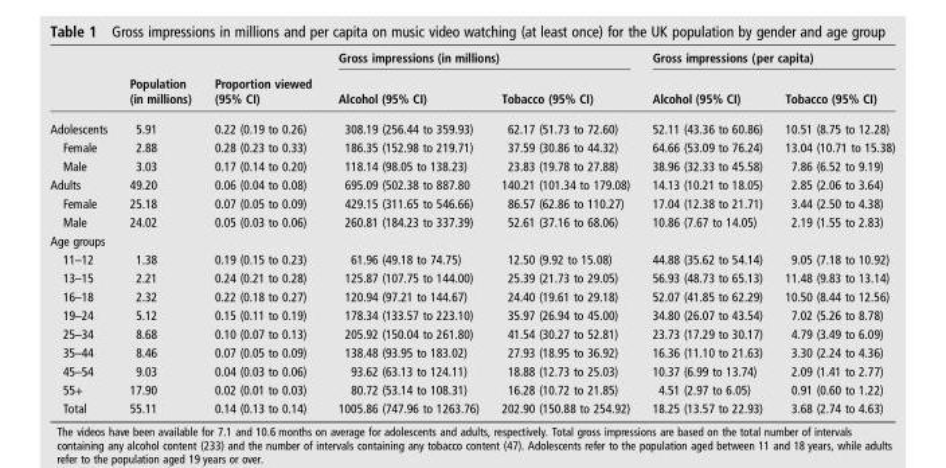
<table><thead><tr><td rowspan="2"></td><td rowspan="2">Population (in millions)</td><td rowspan="2">Proportion viewed (95% CI)</td><td colspan="2">Gross impressions (in millions)</td><td colspan="2">Gross impressions (per capita)</td></tr><tr><td>Alcohol (95% CI)</td><td>Tobacco (95% CI)</td><td>Alcohol (95% CI)</td><td>Tobacco (95% CI)</td></tr></thead><tbody><tr><td>Adolescents</td><td>5.91</td><td>0.22 (0.19 to 0.26)</td><td>308.19 (256.44 to 359.93)</td><td>62.17 (51.73 to 72.60)</td><td>52.11 (43.36 to 60.86)</td><td>10.51 (8.75 to 12.28)</td></tr><tr><td>Female</td><td>2.88</td><td>0.28 (0.23 to 0.33)</td><td>186.35 (152.98 to 219.71)</td><td>37.59 (30.86 to 44.32)</td><td>64.66 (53.09 to 76.24)</td><td>13.04 (10.71 to 15.38)</td></tr><tr><td>Male</td><td>3.03</td><td>0.17 (0.14 to 0.20)</td><td>118.14 (98.05 to 138.23)</td><td>23.83 (19.78 to 27.88)</td><td>38.96 (32.33 to 45.58)</td><td>7.86 (6.52 to 9.19)</td></tr><tr><td>Adults</td><td>49.20</td><td>0.06 (0.04 to 0.08)</td><td>695.09 (502.38 to 887.80</td><td>140.21 (101.34 to 179.08)</td><td>14.13 (10.21 to 18.05)</td><td>2.85 (2.06 to 3.64)</td></tr><tr><td>Female</td><td>25.18</td><td>0.07 (0.05 to 0.09)</td><td>429.15 (311.65 to 546.66)</td><td>86.57 (62.86 to 110.27)</td><td>17.04 (12.38 to 21.71)</td><td>3.44 (2.50 to 4.38)</td></tr><tr><td>Male</td><td>24.02</td><td>0.05 (0.03 to 0.06)</td><td>260.81 (184.23 to 337.39)</td><td>52.61 (37.16 to 68.06)</td><td>10.86 (7.67 to 14.05)</td><td>2.19 (1.55 to 2.83)</td></tr><tr><td colspan="7">Age groups</td></tr><tr><td>11–12</td><td>1.38</td><td>0.19 (0.15 to 0.23)</td><td>61.96 (49.18 to 74.75)</td><td>12.50 (9.92 to 15.08)</td><td>44.88 (35.62 to 54.14)</td><td>9.05 (7.18 to 10.92)</td></tr><tr><td>13–15</td><td>2.21</td><td>0.24 (0.21 to 0.28)</td><td>125.87 (107.75 to 144.00)</td><td>25.39 (21.73 to 29.05)</td><td>56.93 (48.73 to 65.13)</td><td>11.48 (9.83 to 13.14)</td></tr><tr><td>16–18</td><td>2.32</td><td>0.22 (0.18 to 0.27)</td><td>120.94 (97.21 to 144.67)</td><td>24.40 (19.61 to 29.18)</td><td>52.07 (41.85 to 62.29)</td><td>10.50 (8.44 to 12.56)</td></tr><tr><td>19–24</td><td>5.12</td><td>0.15 (0.11 to 0.19)</td><td>178.34 (133.57 to 223.10)</td><td>35.97 (26.94 to 45.00)</td><td>34.80 (26.07 to 43.54)</td><td>7.02 (5.26 to 8.78)</td></tr><tr><td>25–34</td><td>8.68</td><td>0.10 (0.07 to 0.13)</td><td>205.92 (150.04 to 261.80)</td><td>41.54 (30.27 to 52.81)</td><td>23.73 (17.29 to 30.17)</td><td>4.79 (3.49 to 6.09)</td></tr><tr><td>35–44</td><td>8.46</td><td>0.07 (0.05 to 0.09)</td><td>138.48 (93.95 to 183.02)</td><td>27.93 (18.95 to 36.92)</td><td>16.36 (11.10 to 21.63)</td><td>3.30 (2.24 to 4.36)</td></tr><tr><td>45–54</td><td>9.03</td><td>0.04 (0.03 to 0.06)</td><td>93.62 (63.13 to 124.11)</td><td>18.88 (12.73 to 25.03)</td><td>10.37 (6.99 to 13.74)</td><td>2.09 (1.41 to 2.77)</td></tr><tr><td>55+</td><td>17.90</td><td>0.02 (0.01 to 0.03)</td><td>80.72 (53.14 to 108.31)</td><td>16.28 (10.72 to 21.85)</td><td>4.51 (2.97 to 6.05)</td><td>0.91 (0.60 to 1.22)</td></tr><tr><td>Total</td><td>55.11</td><td>0.14 (0.13 to 0.14)</td><td>1005.86 (747.96 to 1263.76)</td><td>202.90 (150.88 to 254.92)</td><td>18.25 (13.57 to 22.93)</td><td>3.68 (2.74 to 4.63)</td></tr></tbody></table>